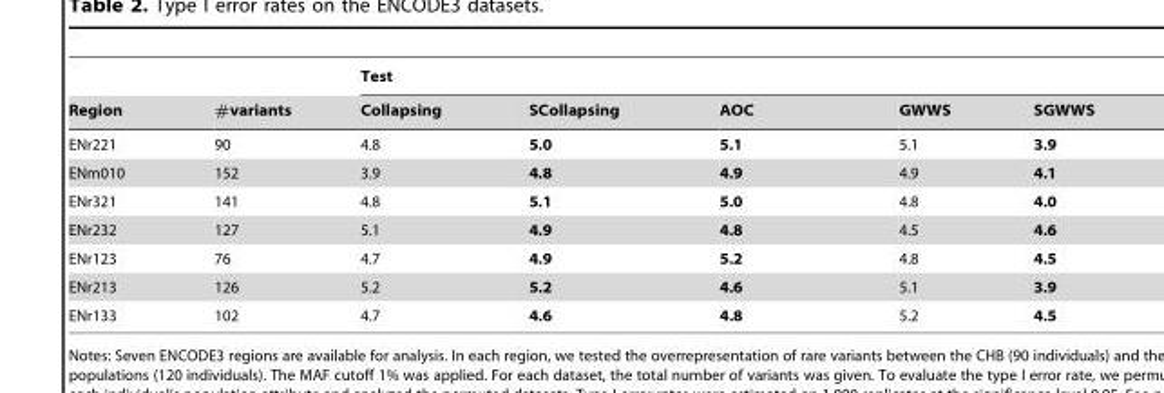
<table><thead><tr><td rowspan="2">Region</td><td rowspan="2">#variants</td><td colspan="5">Test</td></tr><tr><td>Collapsing</td><td>SCollapsing</td><td>AOC</td><td>GWWS</td><td>SGWWS</td></tr></thead><tbody><tr><td>ENr221</td><td>90</td><td>4.8</td><td>5.0</td><td>5.1</td><td>5.1</td><td>3.9</td></tr><tr><td>ENm010</td><td>152</td><td>3.9</td><td>4.8</td><td>4.9</td><td>4.9</td><td>4.1</td></tr><tr><td>ENr321</td><td>141</td><td>4.8</td><td>5.1</td><td>5.0</td><td>4.8</td><td>4.0</td></tr><tr><td>ENr232</td><td>127</td><td>5.1</td><td>4.9</td><td>4.8</td><td>4.5</td><td>4.6</td></tr><tr><td>ENr123</td><td>76</td><td>4.7</td><td>4.9</td><td>5.2</td><td>4.8</td><td>4.5</td></tr><tr><td>ENr213</td><td>126</td><td>5.2</td><td>5.2</td><td>4.6</td><td>5.1</td><td>3.9</td></tr><tr><td>ENr133</td><td>102</td><td>4.7</td><td>4.6</td><td>4.8</td><td>5.2</td><td>4.5</td></tr></tbody></table>